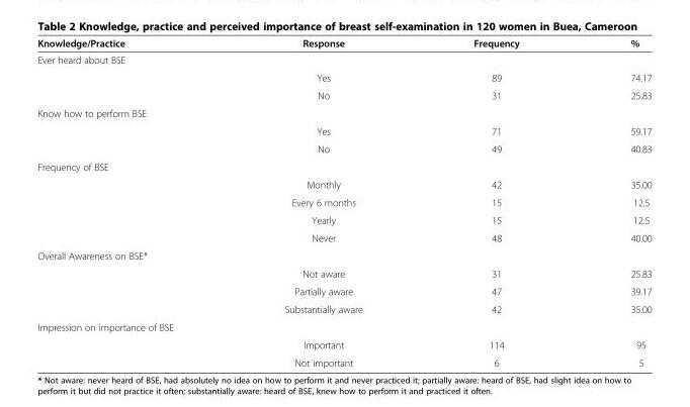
<table><thead><tr><td>Knowledge/Practice</td><td>Response</td><td>Frequency</td><td>%</td></tr></thead><tbody><tr><td colspan="4">Ever heard about BSE</td></tr><tr><td></td><td>Yes</td><td>89</td><td>74.17</td></tr><tr><td></td><td>No</td><td>31</td><td>25.83</td></tr><tr><td colspan="4">Know how to perform BSE</td></tr><tr><td></td><td>Yes</td><td>71</td><td>59.17</td></tr><tr><td></td><td>No</td><td>49</td><td>40.83</td></tr><tr><td colspan="4">Frequency of BSE</td></tr><tr><td></td><td>Monthly</td><td>42</td><td>35.00</td></tr><tr><td></td><td>Every 6 months</td><td>15</td><td>12.5</td></tr><tr><td></td><td>Yearly</td><td>15</td><td>12.5</td></tr><tr><td></td><td>Never</td><td>48</td><td>40.00</td></tr><tr><td colspan="4">Overall Awareness on BSE*</td></tr><tr><td></td><td>Not aware</td><td>31</td><td>25.83</td></tr><tr><td></td><td>Partially aware</td><td>47</td><td>39.17</td></tr><tr><td></td><td>Substantially aware</td><td>42</td><td>35.00</td></tr><tr><td colspan="4">Impression on importance of BSE</td></tr><tr><td></td><td>Important</td><td>114</td><td>95</td></tr><tr><td></td><td>Not important</td><td>6</td><td>5</td></tr></tbody></table>